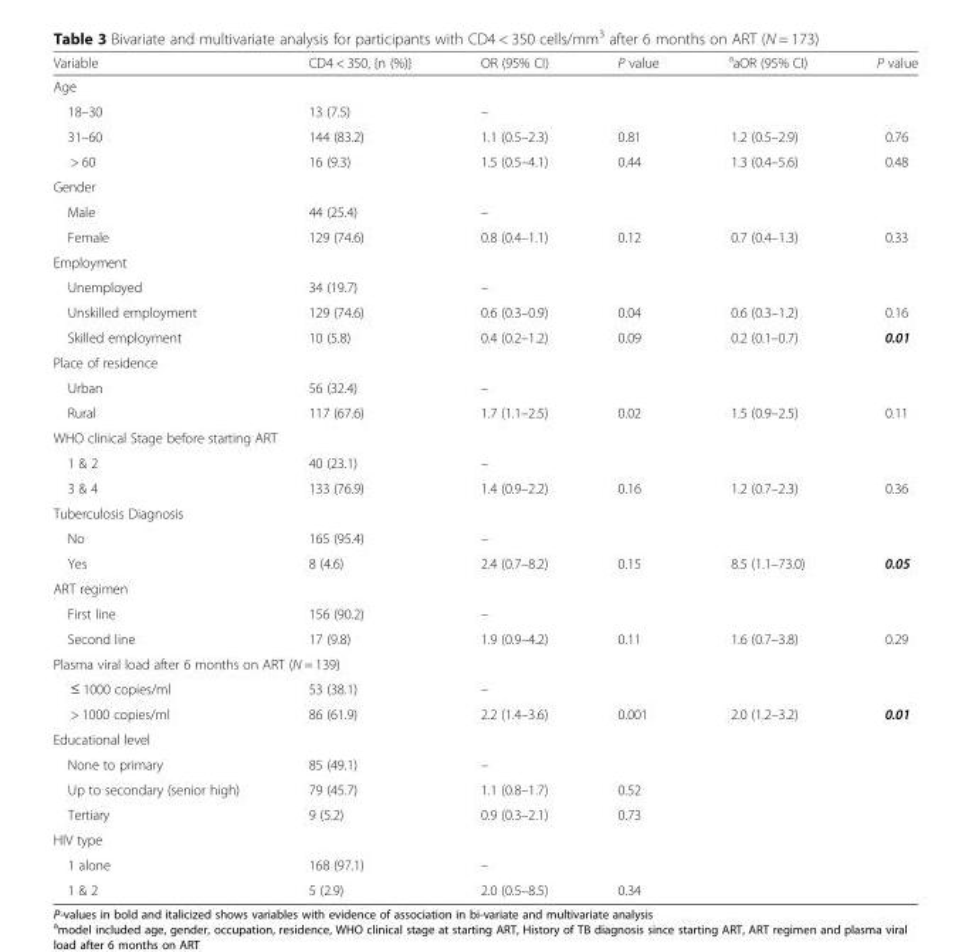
<table><thead><tr><td>Variable</td><td>CD4 &lt; 350, {n (%)}</td><td>OR (95% CI)</td><td>P value</td><td><sup>a</sup>aOR (95% CI)</td><td>P value</td></tr></thead><tbody><tr><td colspan="6">Age</td></tr><tr><td>18–30</td><td>13 (7.5)</td><td>–</td><td></td><td></td><td></td></tr><tr><td>31–60</td><td>144 (83.2)</td><td>1.1 (0.5–2.3)</td><td>0.81</td><td>1.2 (0.5–2.9)</td><td>0.76</td></tr><tr><td>&gt; 60</td><td>16 (9.3)</td><td>1.5 (0.5–4.1)</td><td>0.44</td><td>1.3 (0.4–5.6)</td><td>0.48</td></tr><tr><td colspan="6">Gender</td></tr><tr><td>Male</td><td>44 (25.4)</td><td>–</td><td></td><td></td><td></td></tr><tr><td>Female</td><td>129 (74.6)</td><td>0.8 (0.4–1.1)</td><td>0.12</td><td>0.7 (0.4–1.3)</td><td>0.33</td></tr><tr><td colspan="6">Employment</td></tr><tr><td>Unemployed</td><td>34 (19.7)</td><td>–</td><td></td><td></td><td></td></tr><tr><td>Unskilled employment</td><td>129 (74.6)</td><td>0.6 (0.3–0.9)</td><td>0.04</td><td>0.6 (0.3–1.2)</td><td>0.16</td></tr><tr><td>Skilled employment</td><td>10 (5.8)</td><td>0.4 (0.2–1.2)</td><td>0.09</td><td>0.2 (0.1–0.7)</td><td>0.01</td></tr><tr><td colspan="6">Place of residence</td></tr><tr><td>Urban</td><td>56 (32.4)</td><td>–</td><td></td><td></td><td></td></tr><tr><td>Rural</td><td>117 (67.6)</td><td>1.7 (1.1–2.5)</td><td>0.02</td><td>1.5 (0.9–2.5)</td><td>0.11</td></tr><tr><td colspan="6">WHO clinical Stage before starting ART</td></tr><tr><td>1 &amp; 2</td><td>40 (23.1)</td><td>–</td><td></td><td></td><td></td></tr><tr><td>3 &amp; 4</td><td>133 (76.9)</td><td>1.4 (0.9–2.2)</td><td>0.16</td><td>1.2 (0.7–2.3)</td><td>0.36</td></tr><tr><td colspan="6">Tuberculosis Diagnosis</td></tr><tr><td>No</td><td>165 (95.4)</td><td>–</td><td></td><td></td><td></td></tr><tr><td>Yes</td><td>8 (4.6)</td><td>2.4 (0.7–8.2)</td><td>0.15</td><td>8.5 (1.1–73.0)</td><td>0.05</td></tr><tr><td colspan="6">ART regimen</td></tr><tr><td>First line</td><td>156 (90.2)</td><td>–</td><td></td><td></td><td></td></tr><tr><td>Second line</td><td>17 (9.8)</td><td>1.9 (0.9–4.2)</td><td>0.11</td><td>1.6 (0.7–3.8)</td><td>0.29</td></tr><tr><td colspan="6">Plasma viral load after 6 months on ART (N = 139)</td></tr><tr><td>≤ 1000 copies/ml</td><td>53 (38.1)</td><td>–</td><td></td><td></td><td></td></tr><tr><td>&gt; 1000 copies/ml</td><td>86 (61.9)</td><td>2.2 (1.4–3.6)</td><td>0.001</td><td>2.0 (1.2–3.2)</td><td>0.01</td></tr><tr><td colspan="6">Educational level</td></tr><tr><td>None to primary</td><td>85 (49.1)</td><td>–</td><td></td><td></td><td></td></tr><tr><td>Up to secondary (senior high)</td><td>79 (45.7)</td><td>1.1 (0.8–1.7)</td><td>0.52</td><td></td><td></td></tr><tr><td>Tertiary</td><td>9 (5.2)</td><td>0.9 (0.3–2.1)</td><td>0.73</td><td></td><td></td></tr><tr><td colspan="6">HIV type</td></tr><tr><td>1 alone</td><td>168 (97.1)</td><td>–</td><td></td><td></td><td></td></tr><tr><td>1 &amp; 2</td><td>5 (2.9)</td><td>2.0 (0.5–8.5)</td><td>0.34</td><td></td><td></td></tr></tbody></table>